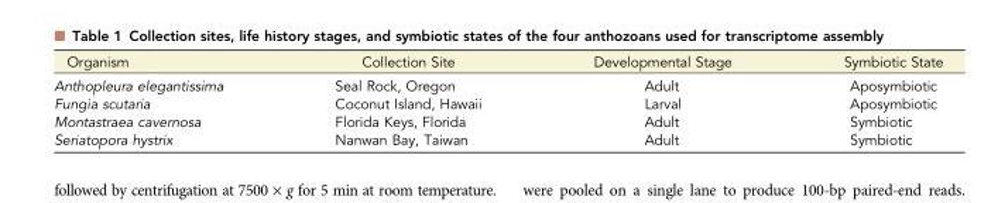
<table><thead><tr><td>Organism</td><td>Collection Site</td><td>Developmental Stage</td><td>Symbiotic State</td></tr></thead><tbody><tr><td>Anthopleura elegantissima</td><td>Seal Rock, Oregon</td><td>Adult</td><td>Aposymbiotic</td></tr><tr><td>Fungia scutaria</td><td>Coconut Island, Hawaii</td><td>Larval</td><td>Aposymbiotic</td></tr><tr><td>Montastraea cavernosa</td><td>Florida Keys, Florida</td><td>Adult</td><td>Symbiotic</td></tr><tr><td>Seriatopora hystrix</td><td>Nanwan Bay, Taiwan</td><td>Adult</td><td>Symbiotic</td></tr></tbody></table>